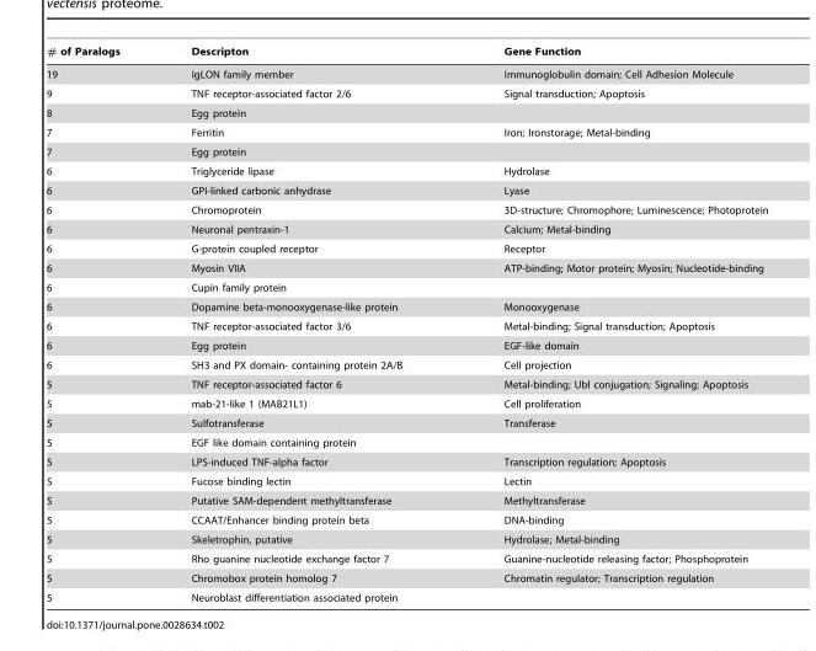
<table><thead><tr><td># of Paralogs</td><td>Descripton</td><td>Gene Function</td></tr></thead><tbody><tr><td>19</td><td>IgLON family member</td><td>Immunoglobulin domain; Cell Adhesion Molecule</td></tr><tr><td>9</td><td>TNF receptor-associated factor 2/6</td><td>Signal transduction; Apoptosis</td></tr><tr><td>8</td><td>Egg protein</td><td></td></tr><tr><td>7</td><td>Ferritin</td><td>Iron; Ironstorage; Metal-binding</td></tr><tr><td>7</td><td>Egg protein</td><td></td></tr><tr><td>6</td><td>Triglyceride lipase</td><td>Hydrolase</td></tr><tr><td>6</td><td>GPI-linked carbonic anhydrase</td><td>Lyase</td></tr><tr><td>6</td><td>Chromoprotein</td><td>3D-structure; Chromophore; Luminescence; Photoprotein</td></tr><tr><td>6</td><td>Neuronal pentraxin-1</td><td>Calcium; Metal-binding</td></tr><tr><td>6</td><td>G-protein coupled receptor</td><td>Receptor</td></tr><tr><td>6</td><td>Myosin VIIA</td><td>ATP-binding; Motor protein; Myosin; Nucleotide-binding</td></tr><tr><td>6</td><td>Cupin family protein</td><td></td></tr><tr><td>6</td><td>Dopamine beta-monooxygenase-like protein</td><td>Monooxygenase</td></tr><tr><td>6</td><td>TNF receptor-associated factor 3/6</td><td>Metal-binding; Signal transduction; Apoptosis</td></tr><tr><td>6</td><td>Egg protein</td><td>EGF-like domain</td></tr><tr><td>6</td><td>SH3 and PX domain- containing protein 2A/B</td><td>Cell projection</td></tr><tr><td>5</td><td>TNF receptor-associated factor 6</td><td>Metal-binding; Ubl conjugation; Signaling; Apoptosis</td></tr><tr><td>5</td><td>mab-21-like 1 (MAB21L1)</td><td>Cell proliferation</td></tr><tr><td>5</td><td>Sulfotransferase</td><td>Transferase</td></tr><tr><td>5</td><td>EGF like domain containing protein</td><td></td></tr><tr><td>5</td><td>LPS-induced TNF-alpha factor</td><td>Transcription regulation; Apoptosis</td></tr><tr><td>5</td><td>Fucose binding lectin</td><td>Lectin</td></tr><tr><td>5</td><td>Putative SAM-dependent methyltransferase</td><td>Methyltransferase</td></tr><tr><td>5</td><td>CCAAT/Enhancer binding protein beta</td><td>DNA-binding</td></tr><tr><td>5</td><td>Skeletrophin, putative</td><td>Hydrolase; Metal-binding</td></tr><tr><td>5</td><td>Rho guanine nucleotide exchange factor 7</td><td>Guanine-nucleotide releasing factor; Phosphoprotein</td></tr><tr><td>5</td><td>Chromobox protein homolog 7</td><td>Chromatin regulator; Transcription regulation</td></tr><tr><td>5</td><td>Neuroblast differentiation associated protein</td><td></td></tr></tbody></table>